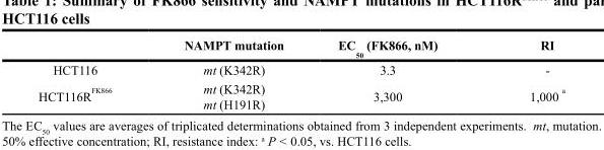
<table><thead><tr><td></td><td>NAMPT mutation</td><td>EC <sub>50</sub> (FK866, nM)</td><td>RI</td></tr></thead><tbody><tr><td>HCT116</td><td>mt (K342R)</td><td>3.3</td><td>-</td></tr><tr><td>HCT116R <sup>FK866</sup></td><td>mt (K342R) mt (H191R)</td><td>3,300</td><td>1,000 <sup>a</sup></td></tr></tbody></table>